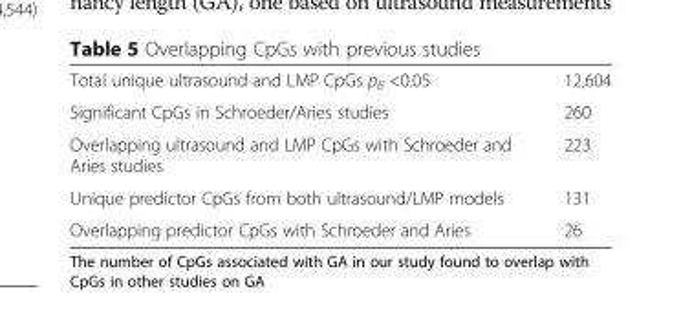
<table><tbody><tr><td>Total unique ultrasound and LMP CpGs p<sub>B</sub> &lt;0.05</td><td>12,604</td></tr><tr><td>Significant CpGs in Schroeder/Aries studies</td><td>260</td></tr><tr><td>Overlapping ultrasound and LMP CpGs with Schroeder and Aries studies</td><td>223</td></tr><tr><td>Unique predictor CpGs from both ultrasound/LMP models</td><td>131</td></tr><tr><td>Overlapping predictor CpGs with Schroeder and Aries</td><td>26</td></tr></tbody></table>